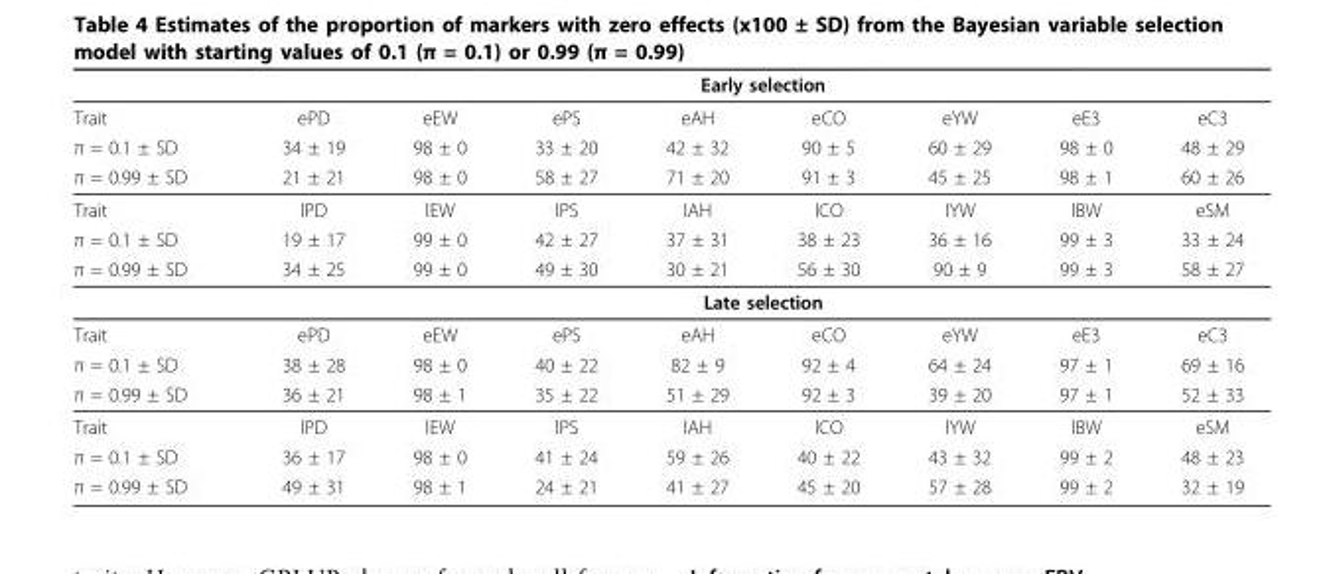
<table><thead><tr><td rowspan="2">Trait</td><td colspan="8">Early selection</td></tr><tr><td>ePD</td><td>eEW</td><td>ePS</td><td>eAH</td><td>eCO</td><td>eYW</td><td>eE3</td><td>eC3</td></tr></thead><tbody><tr><td>π = 0.1 ± SD</td><td>34 ± 19</td><td>98 ± 0</td><td>33 ± 20</td><td>42 ± 32</td><td>90 ± 5</td><td>60 ± 29</td><td>98 ± 0</td><td>48 ± 29</td></tr><tr><td>π = 0.99 ± SD</td><td>21 ± 21</td><td>98 ± 0</td><td>58 ± 27</td><td>71 ± 20</td><td>91 ± 3</td><td>45 ± 25</td><td>98 ± 1</td><td>60 ± 26</td></tr><tr><td>Trait</td><td>lPD</td><td>lEW</td><td>lPS</td><td>lAH</td><td>lCO</td><td>lYW</td><td>lBW</td><td>eSM</td></tr><tr><td>π = 0.1 ± SD</td><td>19 ± 17</td><td>99 ± 0</td><td>42 ± 27</td><td>37 ± 31</td><td>38 ± 23</td><td>36 ± 16</td><td>99 ± 3</td><td>33 ± 24</td></tr><tr><td rowspan="2">π = 0.99 ± SD</td><td>34 ± 25</td><td>99 ± 0</td><td>49 ± 30</td><td>30 ± 21</td><td>56 ± 30</td><td>90 ± 9</td><td>99 ± 3</td><td>58 ± 27</td></tr><tr><td colspan="8">Late selection</td></tr><tr><td>Trait</td><td>ePD</td><td>eEW</td><td>ePS</td><td>eAH</td><td>eCO</td><td>eYW</td><td>eE3</td><td>eC3</td></tr><tr><td>π = 0.1 ± SD</td><td>38 ± 28</td><td>98 ± 0</td><td>40 ± 22</td><td>82 ± 9</td><td>92 ± 4</td><td>64 ± 24</td><td>97 ± 1</td><td>69 ± 16</td></tr><tr><td>π = 0.99 ± SD</td><td>36 ± 21</td><td>98 ± 1</td><td>35 ± 22</td><td>51 ± 29</td><td>92 ± 3</td><td>39 ± 20</td><td>97 ± 1</td><td>52 ± 33</td></tr><tr><td>Trait</td><td>lPD</td><td>lEW</td><td>lPS</td><td>lAH</td><td>lCO</td><td>lYW</td><td>lBW</td><td>eSM</td></tr><tr><td>π = 0.1 ± SD</td><td>36 ± 17</td><td>98 ± 0</td><td>41 ± 24</td><td>59 ± 26</td><td>40 ± 22</td><td>43 ± 32</td><td>99 ± 2</td><td>48 ± 23</td></tr><tr><td>π = 0.99 ± SD</td><td>49 ± 31</td><td>98 ± 1</td><td>24 ± 21</td><td>41 ± 27</td><td>45 ± 20</td><td>57 ± 28</td><td>99 ± 2</td><td>32 ± 19</td></tr></tbody></table>